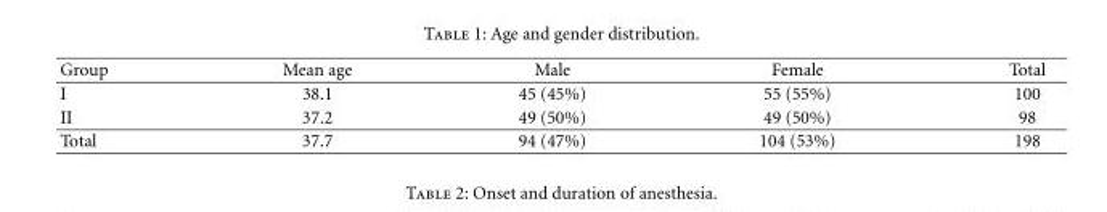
<table><thead><tr><td>Group</td><td>Mean age</td><td>Male</td><td>Female</td><td>Total</td></tr></thead><tbody><tr><td>I</td><td>38.1</td><td>45 (45%)</td><td>55 (55%)</td><td>100</td></tr><tr><td>II</td><td>37.2</td><td>49 (50%)</td><td>49 (50%)</td><td>98</td></tr><tr><td>Total</td><td>37.7</td><td>94 (47%)</td><td>104 (53%)</td><td>198</td></tr></tbody></table>